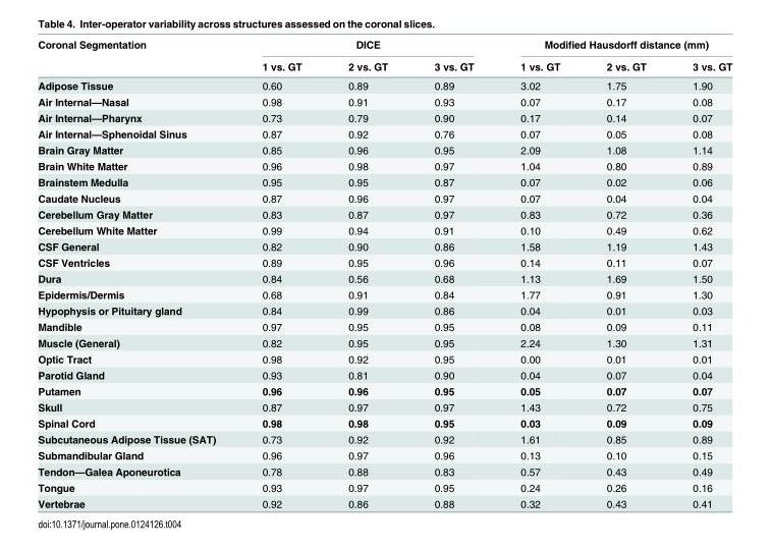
<table><thead><tr><td rowspan="2">Coronal Segmentation</td><td colspan="3">DICE</td><td colspan="3">Modified Hausdorff distance (mm)</td></tr><tr><td>1 vs. GT</td><td>2 vs. GT</td><td>3 vs. GT</td><td>1 vs. GT</td><td>2 vs. GT</td><td>3 vs. GT</td></tr></thead><tbody><tr><td>Adipose Tissue</td><td>0.60</td><td>0.89</td><td>0.89</td><td>3.02</td><td>1.75</td><td>1.90</td></tr><tr><td>Air Internal—Nasal</td><td>0.98</td><td>0.91</td><td>0.93</td><td>0.07</td><td>0.17</td><td>0.08</td></tr><tr><td>Air Internal—Pharynx</td><td>0.73</td><td>0.79</td><td>0.90</td><td>0.17</td><td>0.14</td><td>0.07</td></tr><tr><td>Air Internal—Sphenoidal Sinus</td><td>0.87</td><td>0.92</td><td>0.76</td><td>0.07</td><td>0.05</td><td>0.08</td></tr><tr><td>Brain Gray Matter</td><td>0.85</td><td>0.96</td><td>0.95</td><td>2.09</td><td>1.08</td><td>1.14</td></tr><tr><td>Brain White Matter</td><td>0.96</td><td>0.98</td><td>0.97</td><td>1.04</td><td>0.80</td><td>0.89</td></tr><tr><td>Brainstem Medulla</td><td>0.95</td><td>0.95</td><td>0.87</td><td>0.07</td><td>0.02</td><td>0.06</td></tr><tr><td>Caudate Nucleus</td><td>0.87</td><td>0.96</td><td>0.97</td><td>0.07</td><td>0.04</td><td>0.04</td></tr><tr><td>Cerebellum Gray Matter</td><td>0.83</td><td>0.87</td><td>0.97</td><td>0.83</td><td>0.72</td><td>0.36</td></tr><tr><td>Cerebellum White Matter</td><td>0.99</td><td>0.94</td><td>0.91</td><td>0.10</td><td>0.49</td><td>0.62</td></tr><tr><td>CSF General</td><td>0.82</td><td>0.90</td><td>0.86</td><td>1.58</td><td>1.19</td><td>1.43</td></tr><tr><td>CSF Ventricles</td><td>0.89</td><td>0.95</td><td>0.96</td><td>0.14</td><td>0.11</td><td>0.07</td></tr><tr><td>Dura</td><td>0.84</td><td>0.56</td><td>0.68</td><td>1.13</td><td>1.69</td><td>1.50</td></tr><tr><td>Epidermis/Dermis</td><td>0.68</td><td>0.91</td><td>0.84</td><td>1.77</td><td>0.91</td><td>1.30</td></tr><tr><td>Hypophysis or Pituitary gland</td><td>0.84</td><td>0.99</td><td>0.86</td><td>0.04</td><td>0.01</td><td>0.03</td></tr><tr><td>Mandible</td><td>0.97</td><td>0.95</td><td>0.95</td><td>0.08</td><td>0.09</td><td>0.11</td></tr><tr><td>Muscle (General)</td><td>0.82</td><td>0.95</td><td>0.95</td><td>2.24</td><td>1.30</td><td>1.31</td></tr><tr><td>Optic Tract</td><td>0.98</td><td>0.92</td><td>0.95</td><td>0.00</td><td>0.01</td><td>0.01</td></tr><tr><td>Parotid Gland</td><td>0.93</td><td>0.81</td><td>0.90</td><td>0.04</td><td>0.07</td><td>0.04</td></tr><tr><td>Putamen</td><td>0.96</td><td>0.96</td><td>0.95</td><td>0.05</td><td>0.07</td><td>0.07</td></tr><tr><td>Skull</td><td>0.87</td><td>0.97</td><td>0.97</td><td>1.43</td><td>0.72</td><td>0.75</td></tr><tr><td>Spinal Cord</td><td>0.98</td><td>0.98</td><td>0.95</td><td>0.03</td><td>0.09</td><td>0.09</td></tr><tr><td>Subcutaneous Adipose Tissue (SAT)</td><td>0.73</td><td>0.92</td><td>0.92</td><td>1.61</td><td>0.85</td><td>0.89</td></tr><tr><td>Submandibular Gland</td><td>0.96</td><td>0.97</td><td>0.96</td><td>0.13</td><td>0.10</td><td>0.15</td></tr><tr><td>Tendon—Galea Aponeurotica</td><td>0.78</td><td>0.88</td><td>0.83</td><td>0.57</td><td>0.43</td><td>0.49</td></tr><tr><td>Tongue</td><td>0.93</td><td>0.97</td><td>0.95</td><td>0.24</td><td>0.26</td><td>0.16</td></tr><tr><td>Vertebrae</td><td>0.92</td><td>0.86</td><td>0.88</td><td>0.32</td><td>0.43</td><td>0.41</td></tr></tbody></table>